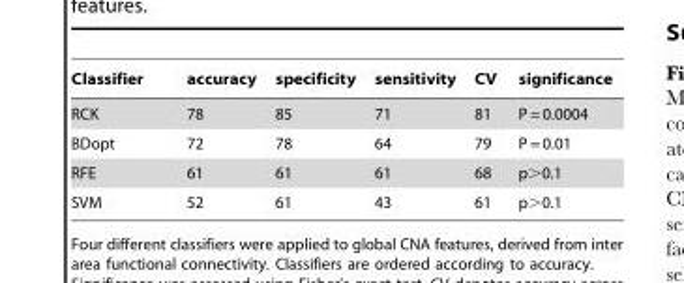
<table><thead><tr><td>Classifier</td><td>accuracy</td><td>specificity</td><td>sensitivity</td><td>CV</td><td>significance</td></tr></thead><tbody><tr><td>RCK</td><td>78</td><td>85</td><td>71</td><td>81</td><td>P = 0.0004</td></tr><tr><td>BDopt</td><td>72</td><td>78</td><td>64</td><td>79</td><td>P = 0.01</td></tr><tr><td>RFE</td><td>61</td><td>61</td><td>61</td><td>68</td><td>p&gt;0.1</td></tr><tr><td>SVM</td><td>52</td><td>61</td><td>43</td><td>61</td><td>p&gt;0.1</td></tr></tbody></table>